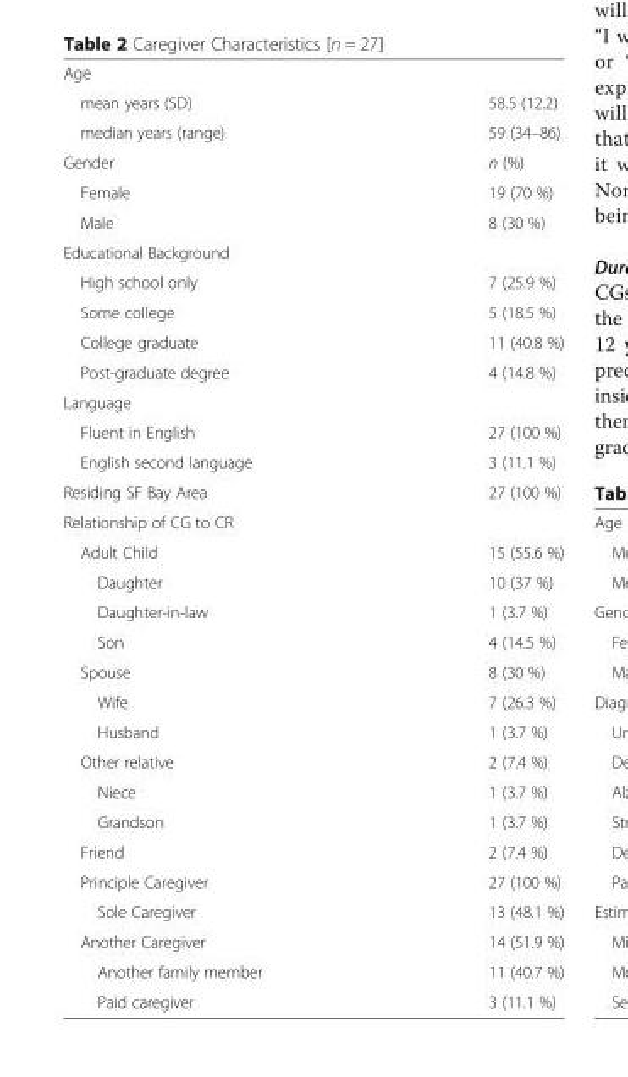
<table><tbody><tr><td colspan="2">Age</td></tr><tr><td>mean years (SD)</td><td>58.5 (12.2)</td></tr><tr><td>median years (range)</td><td>59 (34–86)</td></tr><tr><td>Gender</td><td>n (%)</td></tr><tr><td>Female</td><td>19 (70 %)</td></tr><tr><td>Male</td><td>8 (30 %)</td></tr><tr><td colspan="2">Educational Background</td></tr><tr><td>High school only</td><td>7 (25.9 %)</td></tr><tr><td>Some college</td><td>5 (18.5 %)</td></tr><tr><td>College graduate</td><td>11 (40.8 %)</td></tr><tr><td>Post-graduate degree</td><td>4 (14.8 %)</td></tr><tr><td colspan="2">Language</td></tr><tr><td>Fluent in English</td><td>27 (100 %)</td></tr><tr><td>English second language</td><td>3 (11.1 %)</td></tr><tr><td>Residing SF Bay Area</td><td>27 (100 %)</td></tr><tr><td colspan="2">Relationship of CG to CR</td></tr><tr><td>Adult Child</td><td>15 (55.6 %)</td></tr><tr><td>Daughter</td><td>10 (37 %)</td></tr><tr><td>Daughter-in-law</td><td>1 (3.7 %)</td></tr><tr><td>Son</td><td>4 (14.5 %)</td></tr><tr><td>Spouse</td><td>8 (30 %)</td></tr><tr><td>Wife</td><td>7 (26.3 %)</td></tr><tr><td>Husband</td><td>1 (3.7 %)</td></tr><tr><td>Other relative</td><td>2 (7.4 %)</td></tr><tr><td>Niece</td><td>1 (3.7 %)</td></tr><tr><td>Grandson</td><td>1 (3.7 %)</td></tr><tr><td>Friend</td><td>2 (7.4 %)</td></tr><tr><td>Principle Caregiver</td><td>27 (100 %)</td></tr><tr><td>Sole Caregiver</td><td>13 (48.1 %)</td></tr><tr><td>Another Caregiver</td><td>14 (51.9 %)</td></tr><tr><td>Another family member</td><td>11 (40.7 %)</td></tr><tr><td>Paid caregiver</td><td>3 (11.1 %)</td></tr></tbody></table>